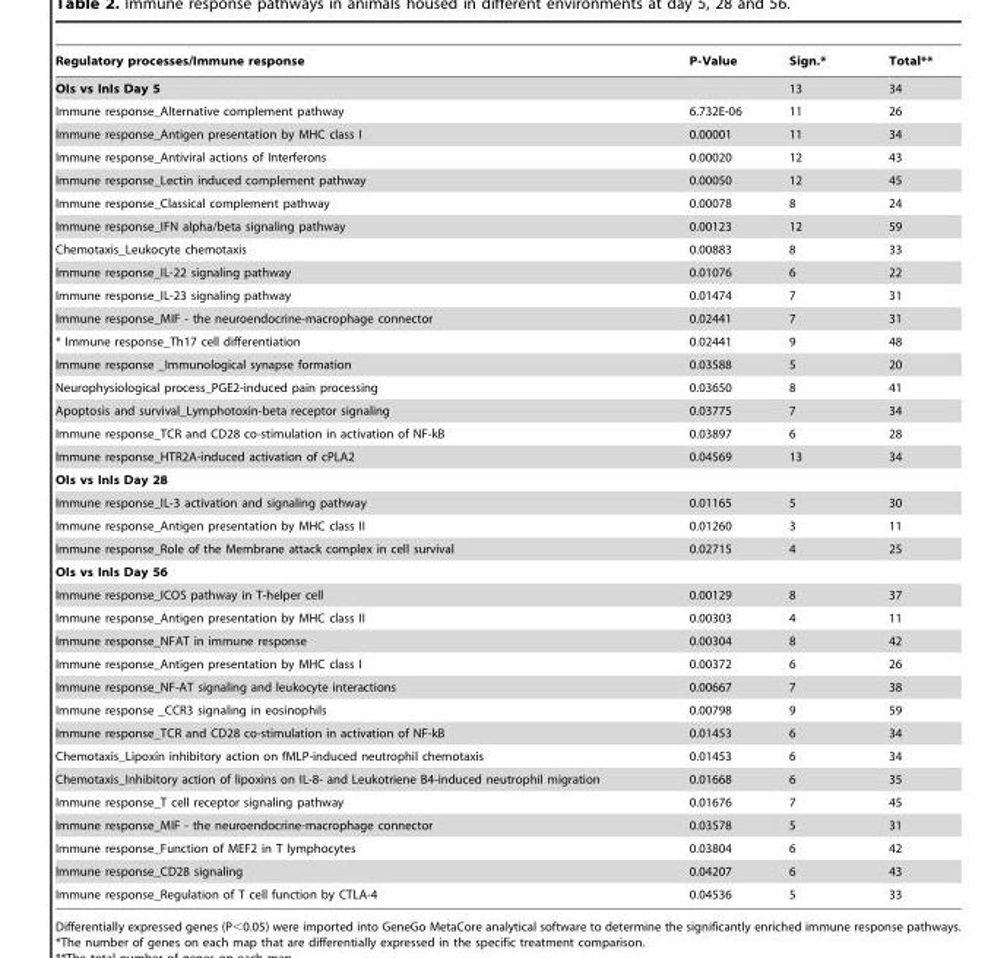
<table><thead><tr><td>Regulatory processes/Immune response</td><td>P-Value</td><td>Sign.*</td><td>Total**</td></tr></thead><tbody><tr><td>OIs vs InIs Day 5</td><td></td><td>13</td><td>34</td></tr><tr><td>Immune response_Alternative complement pathway</td><td>6.732E-06</td><td>11</td><td>26</td></tr><tr><td>Immune response_Antigen presentation by MHC class I</td><td>0.00001</td><td>11</td><td>34</td></tr><tr><td>Immune response_Antiviral actions of Interferons</td><td>0.00020</td><td>12</td><td>43</td></tr><tr><td>Immune response_Lectin induced complement pathway</td><td>0.00050</td><td>12</td><td>45</td></tr><tr><td>Immune response_Classical complement pathway</td><td>0.00078</td><td>8</td><td>24</td></tr><tr><td>Immune response_IFN alpha/beta signaling pathway</td><td>0.00123</td><td>12</td><td>59</td></tr><tr><td>Chemotaxis_Leukocyte chemotaxis</td><td>0.00883</td><td>8</td><td>33</td></tr><tr><td>Immune response_IL-22 signaling pathway</td><td>0.01076</td><td>6</td><td>22</td></tr><tr><td>Immune response_IL-23 signaling pathway</td><td>0.01474</td><td>7</td><td>31</td></tr><tr><td>Immune response_MIF - the neuroendocrine-macrophage connector</td><td>0.02441</td><td>7</td><td>31</td></tr><tr><td>* Immune response_Th17 cell differentiation</td><td>0.02441</td><td>9</td><td>48</td></tr><tr><td>Immune response _Immunological synapse formation</td><td>0.03588</td><td>5</td><td>20</td></tr><tr><td>Neurophysiological process_PGE2-induced pain processing</td><td>0.03650</td><td>8</td><td>41</td></tr><tr><td>Apoptosis and survival_Lymphotoxin-beta receptor signaling</td><td>0.03775</td><td>7</td><td>34</td></tr><tr><td>Immune response_TCR and CD28 co-stimulation in activation of NF-kB</td><td>0.03897</td><td>6</td><td>28</td></tr><tr><td>Immune response_HTR2A-induced activation of cPLA2</td><td>0.04569</td><td>13</td><td>34</td></tr><tr><td colspan="4">OIs vs InIs Day 28</td></tr><tr><td>Immune response_IL-3 activation and signaling pathway</td><td>0.01165</td><td>5</td><td>30</td></tr><tr><td>Immune response_Antigen presentation by MHC class II</td><td>0.01260</td><td>3</td><td>11</td></tr><tr><td>Immune response_Role of the Membrane attack complex in cell survival</td><td>0.02715</td><td>4</td><td>25</td></tr><tr><td colspan="4">OIs vs InIs Day 56</td></tr><tr><td>Immune response_ICOS pathway in T-helper cell</td><td>0.00129</td><td>8</td><td>37</td></tr><tr><td>Immune response_Antigen presentation by MHC class II</td><td>0.00303</td><td>4</td><td>11</td></tr><tr><td>Immune response_NFAT in immune response</td><td>0.00304</td><td>8</td><td>42</td></tr><tr><td>Immune response_Antigen presentation by MHC class I</td><td>0.00372</td><td>6</td><td>26</td></tr><tr><td>Immune response_NF-AT signaling and leukocyte interactions</td><td>0.00667</td><td>7</td><td>38</td></tr><tr><td>Immune response _CCR3 signaling in eosinophils</td><td>0.00798</td><td>9</td><td>59</td></tr><tr><td>Immune response_TCR and CD28 co-stimulation in activation of NF-kB</td><td>0.01453</td><td>6</td><td>34</td></tr><tr><td>Chemotaxis_Lipoxin inhibitory action on fMLP-induced neutrophil chemotaxis</td><td>0.01453</td><td>6</td><td>34</td></tr><tr><td>Chemotaxis_Inhibitory action of lipoxins on IL-8- and Leukotriene B4-induced neutrophil migration</td><td>0.01668</td><td>6</td><td>35</td></tr><tr><td>Immune response_T cell receptor signaling pathway</td><td>0.01676</td><td>7</td><td>45</td></tr><tr><td>Immune response_MIF - the neuroendocrine-macrophage connector</td><td>0.03578</td><td>5</td><td>31</td></tr><tr><td>Immune response_Function of MEF2 in T lymphocytes</td><td>0.03804</td><td>6</td><td>42</td></tr><tr><td>Immune response_CD28 signaling</td><td>0.04207</td><td>6</td><td>43</td></tr><tr><td>Immune response_Regulation of T cell function by CTLA-4</td><td>0.04536</td><td>5</td><td>33</td></tr></tbody></table>